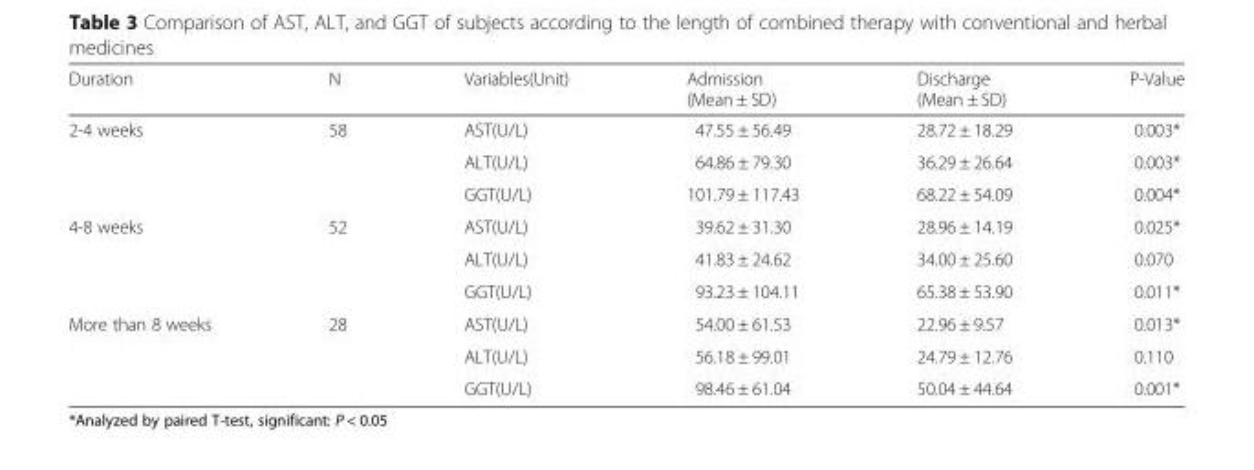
<table><thead><tr><td>Duration</td><td>N</td><td>Variables(Unit)</td><td>Admission (Mean ± SD)</td><td>Discharge (Mean ± SD)</td><td>P-Value</td></tr></thead><tbody><tr><td rowspan="3">2-4 weeks</td><td rowspan="3">58</td><td>AST(U/L)</td><td>47.55 ± 56.49</td><td>28.72 ± 18.29</td><td>0.003*</td></tr><tr><td>ALT(U/L)</td><td>64.86 ± 79.30</td><td>36.29 ± 26.64</td><td>0.003*</td></tr><tr><td>GGT(U/L)</td><td>101.79 ± 117.43</td><td>68.22 ± 54.09</td><td>0.004*</td></tr><tr><td rowspan="3">4-8 weeks</td><td rowspan="3">52</td><td>AST(U/L)</td><td>39.62 ± 31.30</td><td>28.96 ± 14.19</td><td>0.025*</td></tr><tr><td>ALT(U/L)</td><td>41.83 ± 24.62</td><td>34.00 ± 25.60</td><td>0.070</td></tr><tr><td>GGT(U/L)</td><td>93.23 ± 104.11</td><td>65.38 ± 53.90</td><td>0.011*</td></tr><tr><td rowspan="3">More than 8 weeks</td><td rowspan="3">28</td><td>AST(U/L)</td><td>54.00 ± 61.53</td><td>22.96 ± 9.57</td><td>0.013*</td></tr><tr><td>ALT(U/L)</td><td>56.18 ± 99.01</td><td>24.79 ± 12.76</td><td>0.110</td></tr><tr><td>GGT(U/L)</td><td>98.46 ± 61.04</td><td>50.04 ± 44.64</td><td>0.001*</td></tr></tbody></table>